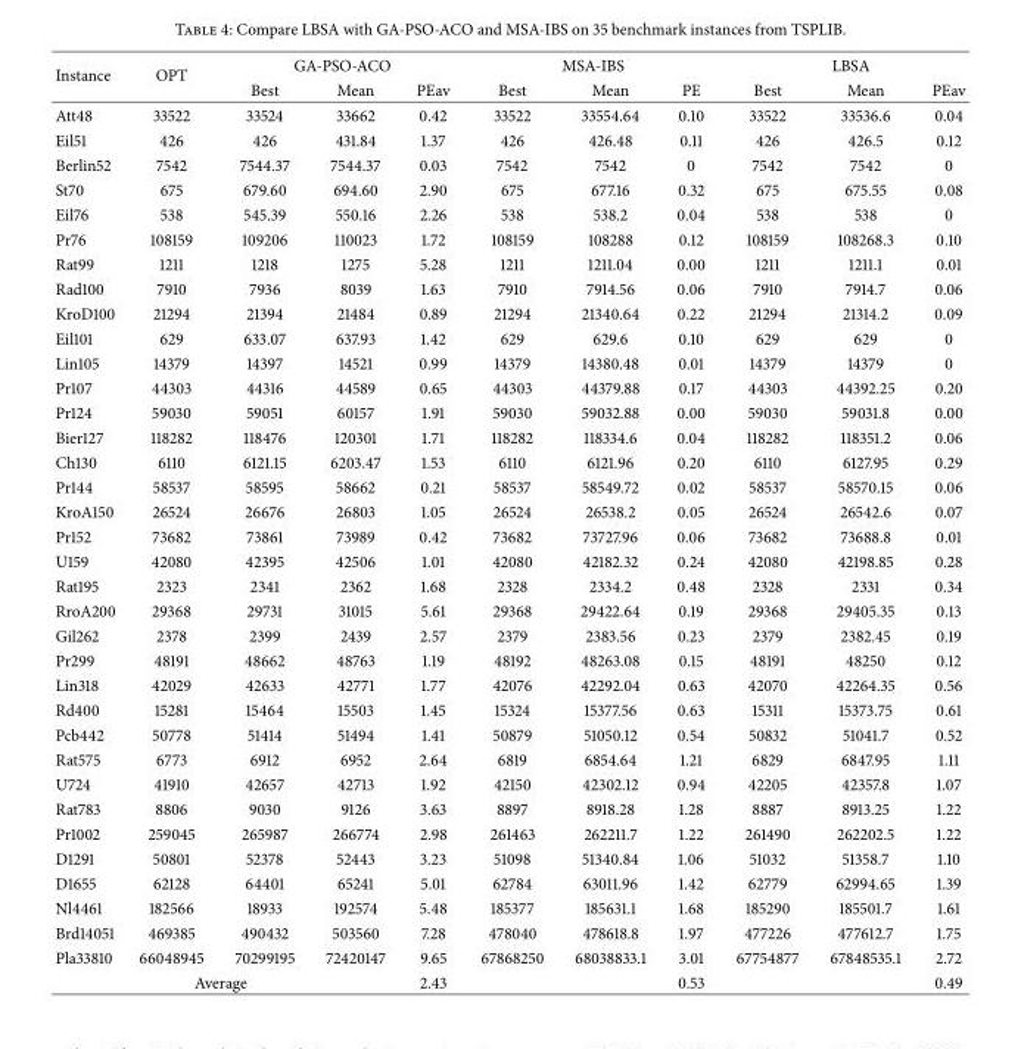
<table><thead><tr><td rowspan="2">Instance</td><td rowspan="2">OPT</td><td colspan="3">GA-PSO-ACO</td><td colspan="3">MSA-IBS</td><td colspan="3">LBSA</td></tr><tr><td>Best</td><td>Mean</td><td>PEav</td><td>Best</td><td>Mean</td><td>PE</td><td>Best</td><td>Mean</td><td>PEav</td></tr></thead><tbody><tr><td>Att48</td><td>33522</td><td>33524</td><td>33662</td><td>0.42</td><td>33522</td><td>33554.64</td><td>0.10</td><td>33522</td><td>33536.6</td><td>0.04</td></tr><tr><td>Eil51</td><td>426</td><td>426</td><td>431.84</td><td>1.37</td><td>426</td><td>426.48</td><td>0.11</td><td>426</td><td>426.5</td><td>0.12</td></tr><tr><td>Berlin52</td><td>7542</td><td>7544.37</td><td>7544.37</td><td>0.03</td><td>7542</td><td>7542</td><td>0</td><td>7542</td><td>7542</td><td>0</td></tr><tr><td>St70</td><td>675</td><td>679.60</td><td>694.60</td><td>2.90</td><td>675</td><td>677.16</td><td>0.32</td><td>675</td><td>675.55</td><td>0.08</td></tr><tr><td>Eil76</td><td>538</td><td>545.39</td><td>550.16</td><td>2.26</td><td>538</td><td>538.2</td><td>0.04</td><td>538</td><td>538</td><td>0</td></tr><tr><td>Pr76</td><td>108159</td><td>109206</td><td>110023</td><td>1.72</td><td>108159</td><td>108288</td><td>0.12</td><td>108159</td><td>108268.3</td><td>0.10</td></tr><tr><td>Rat99</td><td>1211</td><td>1218</td><td>1275</td><td>5.28</td><td>1211</td><td>1211.04</td><td>0.00</td><td>1211</td><td>1211.1</td><td>0.01</td></tr><tr><td>Rad100</td><td>7910</td><td>7936</td><td>8039</td><td>1.63</td><td>7910</td><td>7914.56</td><td>0.06</td><td>7910</td><td>7914.7</td><td>0.06</td></tr><tr><td>KroD100</td><td>21294</td><td>21394</td><td>21484</td><td>0.89</td><td>21294</td><td>21340.64</td><td>0.22</td><td>21294</td><td>21314.2</td><td>0.09</td></tr><tr><td>Eil101</td><td>629</td><td>633.07</td><td>637.93</td><td>1.42</td><td>629</td><td>629.6</td><td>0.10</td><td>629</td><td>629</td><td>0</td></tr><tr><td>Lin105</td><td>14379</td><td>14397</td><td>14521</td><td>0.99</td><td>14379</td><td>14380.48</td><td>0.01</td><td>14379</td><td>14379</td><td>0</td></tr><tr><td>Pr107</td><td>44303</td><td>44316</td><td>44589</td><td>0.65</td><td>44303</td><td>44379.88</td><td>0.17</td><td>44303</td><td>44392.25</td><td>0.20</td></tr><tr><td>Pr124</td><td>59030</td><td>59051</td><td>60157</td><td>1.91</td><td>59030</td><td>59032.88</td><td>0.00</td><td>59030</td><td>59031.8</td><td>0.00</td></tr><tr><td>Bier127</td><td>118282</td><td>118476</td><td>120301</td><td>1.71</td><td>118282</td><td>118334.6</td><td>0.04</td><td>118282</td><td>118351.2</td><td>0.06</td></tr><tr><td>Ch130</td><td>6110</td><td>6121.15</td><td>6203.47</td><td>1.53</td><td>6110</td><td>6121.96</td><td>0.20</td><td>6110</td><td>6127.95</td><td>0.29</td></tr><tr><td>Pr144</td><td>58537</td><td>58595</td><td>58662</td><td>0.21</td><td>58537</td><td>58549.72</td><td>0.02</td><td>58537</td><td>58570.15</td><td>0.06</td></tr><tr><td>KroA150</td><td>26524</td><td>26676</td><td>26803</td><td>1.05</td><td>26524</td><td>26538.2</td><td>0.05</td><td>26524</td><td>26542.6</td><td>0.07</td></tr><tr><td>Pr152</td><td>73682</td><td>73861</td><td>73989</td><td>0.42</td><td>73682</td><td>73727.96</td><td>0.06</td><td>73682</td><td>73688.8</td><td>0.01</td></tr><tr><td>U159</td><td>42080</td><td>42395</td><td>42506</td><td>1.01</td><td>42080</td><td>42182.32</td><td>0.24</td><td>42080</td><td>42198.85</td><td>0.28</td></tr><tr><td>Rat195</td><td>2323</td><td>2341</td><td>2362</td><td>1.68</td><td>2328</td><td>2334.2</td><td>0.48</td><td>2328</td><td>2331</td><td>0.34</td></tr><tr><td>RroA200</td><td>29368</td><td>29731</td><td>31015</td><td>5.61</td><td>29368</td><td>29422.64</td><td>0.19</td><td>29368</td><td>29405.35</td><td>0.13</td></tr><tr><td>Gil262</td><td>2378</td><td>2399</td><td>2439</td><td>2.57</td><td>2379</td><td>2383.56</td><td>0.23</td><td>2379</td><td>2382.45</td><td>0.19</td></tr><tr><td>Pr299</td><td>48191</td><td>48662</td><td>48763</td><td>1.19</td><td>48192</td><td>48263.08</td><td>0.15</td><td>48191</td><td>48250</td><td>0.12</td></tr><tr><td>Lin318</td><td>42029</td><td>42633</td><td>42771</td><td>1.77</td><td>42076</td><td>42292.04</td><td>0.63</td><td>42070</td><td>42264.35</td><td>0.56</td></tr><tr><td>Rd400</td><td>15281</td><td>15464</td><td>15503</td><td>1.45</td><td>15324</td><td>15377.56</td><td>0.63</td><td>15311</td><td>15373.75</td><td>0.61</td></tr><tr><td>Pcb442</td><td>50778</td><td>51414</td><td>51494</td><td>1.41</td><td>50879</td><td>51050.12</td><td>0.54</td><td>50832</td><td>51041.7</td><td>0.52</td></tr><tr><td>Rat575</td><td>6773</td><td>6912</td><td>6952</td><td>2.64</td><td>6819</td><td>6854.64</td><td>1.21</td><td>6829</td><td>6847.95</td><td>1.11</td></tr><tr><td>U724</td><td>41910</td><td>42657</td><td>42713</td><td>1.92</td><td>42150</td><td>42302.12</td><td>0.94</td><td>42205</td><td>42357.8</td><td>1.07</td></tr><tr><td>Rat783</td><td>8806</td><td>9030</td><td>9126</td><td>3.63</td><td>8897</td><td>8918.28</td><td>1.28</td><td>8887</td><td>8913.25</td><td>1.22</td></tr><tr><td>Pr1002</td><td>259045</td><td>265987</td><td>266774</td><td>2.98</td><td>261463</td><td>262211.7</td><td>1.22</td><td>261490</td><td>262202.5</td><td>1.22</td></tr><tr><td>D1291</td><td>50801</td><td>52378</td><td>52443</td><td>3.23</td><td>51098</td><td>51340.84</td><td>1.06</td><td>51032</td><td>51358.7</td><td>1.10</td></tr><tr><td>D1655</td><td>62128</td><td>64401</td><td>65241</td><td>5.01</td><td>62784</td><td>63011.96</td><td>1.42</td><td>62779</td><td>62994.65</td><td>1.39</td></tr><tr><td>Nl4461</td><td>182566</td><td>18933</td><td>192574</td><td>5.48</td><td>185377</td><td>185631.1</td><td>1.68</td><td>185290</td><td>185501.7</td><td>1.61</td></tr><tr><td>Brd14051</td><td>469385</td><td>490432</td><td>503560</td><td>7.28</td><td>478040</td><td>478618.8</td><td>1.97</td><td>477226</td><td>477612.7</td><td>1.75</td></tr><tr><td>Pla33810</td><td>66048945</td><td>70299195</td><td>72420147</td><td>9.65</td><td>67868250</td><td>68038833.1</td><td>3.01</td><td>67754877</td><td>67848535.1</td><td>2.72</td></tr><tr><td colspan="4">Average</td><td>2.43</td><td colspan="2"></td><td>0.53</td><td colspan="2"></td><td>0.49</td></tr></tbody></table>